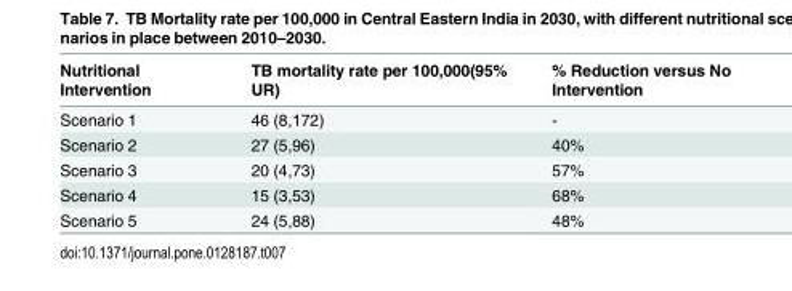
<table><thead><tr><td>Nutritional Intervention</td><td>TB mortality rate per 100,000(95% UR)</td><td>% Reduction versus No Intervention</td></tr></thead><tbody><tr><td>Scenario 1</td><td>46 (8,172)</td><td>-</td></tr><tr><td>Scenario 2</td><td>27 (5,96)</td><td>40%</td></tr><tr><td>Scenario 3</td><td>20 (4,73)</td><td>57%</td></tr><tr><td>Scenario 4</td><td>15 (3,53)</td><td>68%</td></tr><tr><td>Scenario 5</td><td>24 (5,88)</td><td>48%</td></tr></tbody></table>